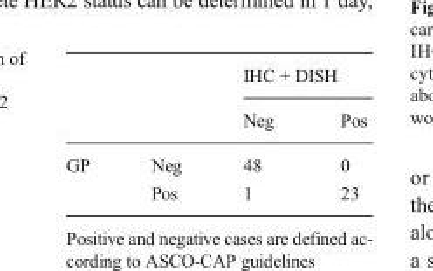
<table><thead><tr><td rowspan="2"></td><td rowspan="2"></td><td colspan="2">IHC + DISH</td></tr><tr><td>Neg</td><td>Pos</td></tr></thead><tbody><tr><td rowspan="2">GP</td><td>Neg</td><td>48</td><td>0</td></tr><tr><td>Pos</td><td>1</td><td>23</td></tr></tbody></table>